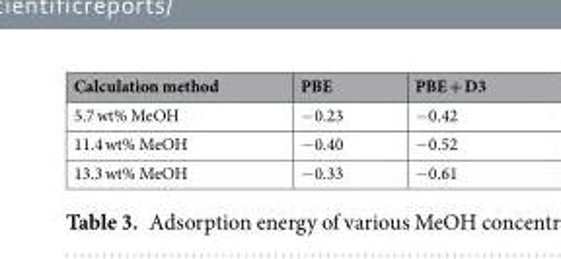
<table><thead><tr><td>Calculation method</td><td>PBE</td><td>PBE + D3</td></tr></thead><tbody><tr><td>5.7 wt% MeOH</td><td>−0.23</td><td>−0.42</td></tr><tr><td>11.4 wt% MeOH</td><td>−0.40</td><td>−0.52</td></tr><tr><td>13.3 wt% MeOH</td><td>−0.33</td><td>−0.61</td></tr></tbody></table>